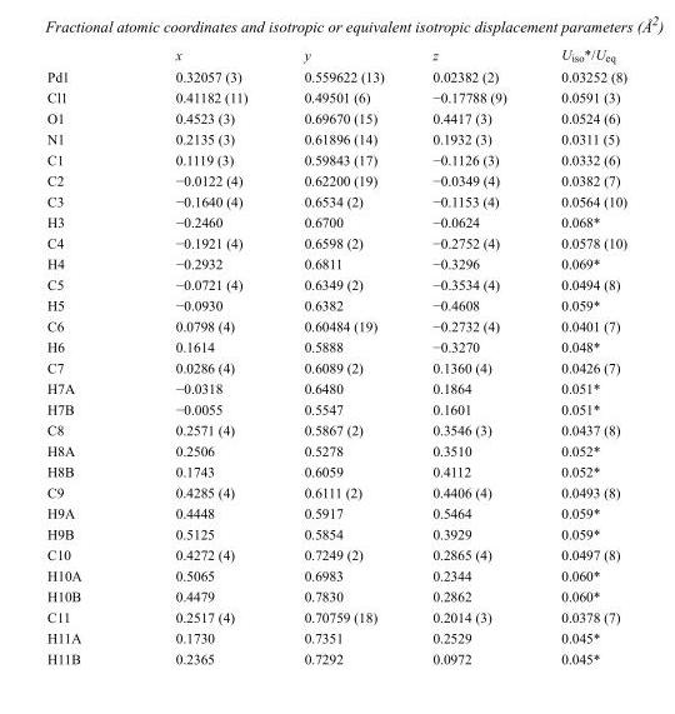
<table><thead><tr><td></td><td>x</td><td>y</td><td>z</td><td>U<sub>iso</sub>*/U<sub>eq</sub></td></tr></thead><tbody><tr><td>Pd1</td><td>0.32057 (3)</td><td>0.559622 (13)</td><td>0.02382 (2)</td><td>0.03252 (8)</td></tr><tr><td>Cl1</td><td>0.41182 (11)</td><td>0.49501 (6)</td><td>−0.17788 (9)</td><td>0.0591 (3)</td></tr><tr><td>O1</td><td>0.4523 (3)</td><td>0.69670 (15)</td><td>0.4417 (3)</td><td>0.0524 (6)</td></tr><tr><td>N1</td><td>0.2135 (3)</td><td>0.61896 (14)</td><td>0.1932 (3)</td><td>0.0311 (5)</td></tr><tr><td>C1</td><td>0.1119 (3)</td><td>0.59843 (17)</td><td>−0.1126 (3)</td><td>0.0332 (6)</td></tr><tr><td>C2</td><td>−0.0122 (4)</td><td>0.62200 (19)</td><td>−0.0349 (4)</td><td>0.0382 (7)</td></tr><tr><td>C3</td><td>−0.1640 (4)</td><td>0.6534 (2)</td><td>−0.1153 (4)</td><td>0.0564 (10)</td></tr><tr><td>H3</td><td>−0.2460</td><td>0.6700</td><td>−0.0624</td><td>0.068*</td></tr><tr><td>C4</td><td>−0.1921 (4)</td><td>0.6598 (2)</td><td>−0.2752 (4)</td><td>0.0578 (10)</td></tr><tr><td>H4</td><td>−0.2932</td><td>0.6811</td><td>−0.3296</td><td>0.069*</td></tr><tr><td>C5</td><td>−0.0721 (4)</td><td>0.6349 (2)</td><td>−0.3534 (4)</td><td>0.0494 (8)</td></tr><tr><td>H5</td><td>−0.0930</td><td>0.6382</td><td>−0.4608</td><td>0.059*</td></tr><tr><td>C6</td><td>0.0798 (4)</td><td>0.60484 (19)</td><td>−0.2732 (4)</td><td>0.0401 (7)</td></tr><tr><td>H6</td><td>0.1614</td><td>0.5888</td><td>−0.3270</td><td>0.048*</td></tr><tr><td>C7</td><td>0.0286 (4)</td><td>0.6089 (2)</td><td>0.1360 (4)</td><td>0.0426 (7)</td></tr><tr><td>H7A</td><td>−0.0318</td><td>0.6480</td><td>0.1864</td><td>0.051*</td></tr><tr><td>H7B</td><td>−0.0055</td><td>0.5547</td><td>0.1601</td><td>0.051*</td></tr><tr><td>C8</td><td>0.2571 (4)</td><td>0.5867 (2)</td><td>0.3546 (3)</td><td>0.0437 (8)</td></tr><tr><td>H8A</td><td>0.2506</td><td>0.5278</td><td>0.3510</td><td>0.052*</td></tr><tr><td>H8B</td><td>0.1743</td><td>0.6059</td><td>0.4112</td><td>0.052*</td></tr><tr><td>C9</td><td>0.4285 (4)</td><td>0.6111 (2)</td><td>0.4406 (4)</td><td>0.0493 (8)</td></tr><tr><td>H9A</td><td>0.4448</td><td>0.5917</td><td>0.5464</td><td>0.059*</td></tr><tr><td>H9B</td><td>0.5125</td><td>0.5854</td><td>0.3929</td><td>0.059*</td></tr><tr><td>C10</td><td>0.4272 (4)</td><td>0.7249 (2)</td><td>0.2865 (4)</td><td>0.0497 (8)</td></tr><tr><td>H10A</td><td>0.5065</td><td>0.6983</td><td>0.2344</td><td>0.060*</td></tr><tr><td>H10B</td><td>0.4479</td><td>0.7830</td><td>0.2862</td><td>0.060*</td></tr><tr><td>C11</td><td>0.2517 (4)</td><td>0.70759 (18)</td><td>0.2014 (3)</td><td>0.0378 (7)</td></tr><tr><td>H11A</td><td>0.1730</td><td>0.7351</td><td>0.2529</td><td>0.045*</td></tr><tr><td>H11B</td><td>0.2365</td><td>0.7292</td><td>0.0972</td><td>0.045*</td></tr></tbody></table>